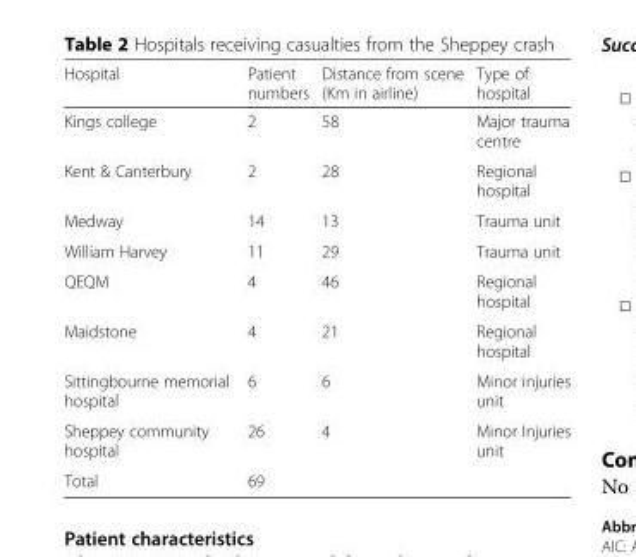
<table><thead><tr><td>Hospital</td><td>Patient numbers</td><td>Distance from scene (Km in airline)</td><td>Type of hospital</td></tr></thead><tbody><tr><td>Kings college</td><td>2</td><td>58</td><td>Major trauma centre</td></tr><tr><td>Kent &amp; Canterbury</td><td>2</td><td>28</td><td>Regional hospital</td></tr><tr><td>Medway</td><td>14</td><td>13</td><td>Trauma unit</td></tr><tr><td>William Harvey</td><td>11</td><td>29</td><td>Trauma unit</td></tr><tr><td>QEQM</td><td>4</td><td>46</td><td>Regional hospital</td></tr><tr><td>Maidstone</td><td>4</td><td>21</td><td>Regional hospital</td></tr><tr><td>Sittingbourne memorial hospital</td><td>6</td><td>6</td><td>Minor injuries unit</td></tr><tr><td>Sheppey community hospital</td><td>26</td><td>4</td><td>Minor Injuries unit</td></tr><tr><td>Total</td><td>69</td><td></td><td></td></tr></tbody></table>